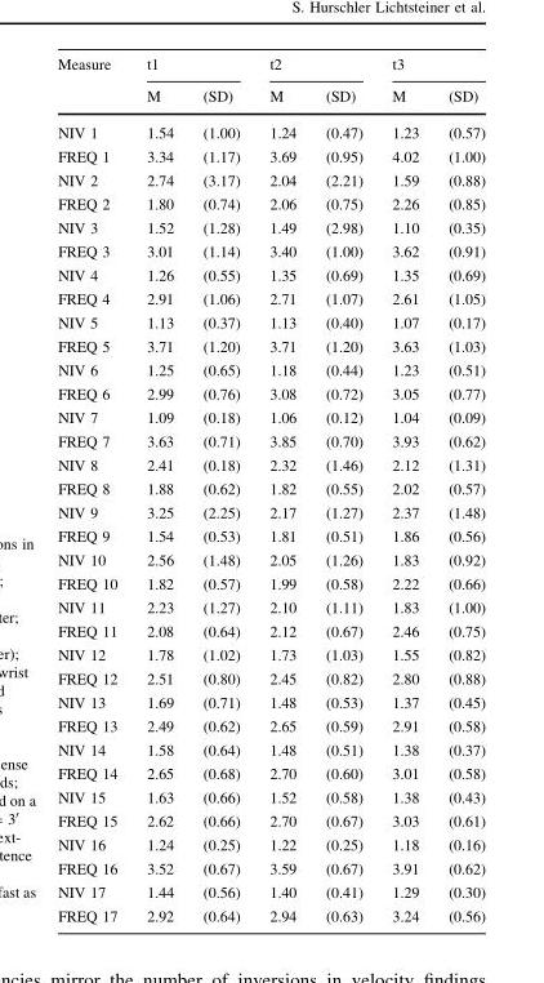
<table><thead><tr><td rowspan="2">Measure</td><td colspan="2">t1</td><td colspan="2">t2</td><td colspan="2">t3</td></tr><tr><td>M</td><td>(SD)</td><td>M</td><td>(SD)</td><td>M</td><td>(SD)</td></tr></thead><tbody><tr><td>NIV 1</td><td>1.54</td><td>(1.00)</td><td>1.24</td><td>(0.47)</td><td>1.23</td><td>(0.57)</td></tr><tr><td>FREQ 1</td><td>3.34</td><td>(1.17)</td><td>3.69</td><td>(0.95)</td><td>4.02</td><td>(1.00)</td></tr><tr><td>NIV 2</td><td>2.74</td><td>(3.17)</td><td>2.04</td><td>(2.21)</td><td>1.59</td><td>(0.88)</td></tr><tr><td>FREQ 2</td><td>1.80</td><td>(0.74)</td><td>2.06</td><td>(0.75)</td><td>2.26</td><td>(0.85)</td></tr><tr><td>NIV 3</td><td>1.52</td><td>(1.28)</td><td>1.49</td><td>(2.98)</td><td>1.10</td><td>(0.35)</td></tr><tr><td>FREQ 3</td><td>3.01</td><td>(1.14)</td><td>3.40</td><td>(1.00)</td><td>3.62</td><td>(0.91)</td></tr><tr><td>NIV 4</td><td>1.26</td><td>(0.55)</td><td>1.35</td><td>(0.69)</td><td>1.35</td><td>(0.69)</td></tr><tr><td>FREQ 4</td><td>2.91</td><td>(1.06)</td><td>2.71</td><td>(1.07)</td><td>2.61</td><td>(1.05)</td></tr><tr><td>NIV 5</td><td>1.13</td><td>(0.37)</td><td>1.13</td><td>(0.40)</td><td>1.07</td><td>(0.17)</td></tr><tr><td>FREQ 5</td><td>3.71</td><td>(1.20)</td><td>3.71</td><td>(1.20)</td><td>3.63</td><td>(1.03)</td></tr><tr><td>NIV 6</td><td>1.25</td><td>(0.65)</td><td>1.18</td><td>(0.44)</td><td>1.23</td><td>(0.51)</td></tr><tr><td>FREQ 6</td><td>2.99</td><td>(0.76)</td><td>3.08</td><td>(0.72)</td><td>3.05</td><td>(0.77)</td></tr><tr><td>NIV 7</td><td>1.09</td><td>(0.18)</td><td>1.06</td><td>(0.12)</td><td>1.04</td><td>(0.09)</td></tr><tr><td>FREQ 7</td><td>3.63</td><td>(0.71)</td><td>3.85</td><td>(0.70)</td><td>3.93</td><td>(0.62)</td></tr><tr><td>NIV 8</td><td>2.41</td><td>(0.18)</td><td>2.32</td><td>(1.46)</td><td>2.12</td><td>(1.31)</td></tr><tr><td>FREQ 8</td><td>1.88</td><td>(0.62)</td><td>1.82</td><td>(0.55)</td><td>2.02</td><td>(0.57)</td></tr><tr><td>NIV 9</td><td>3.25</td><td>(2.25)</td><td>2.17</td><td>(1.27)</td><td>2.37</td><td>(1.48)</td></tr><tr><td>FREQ 9</td><td>1.54</td><td>(0.53)</td><td>1.81</td><td>(0.51)</td><td>1.86</td><td>(0.56)</td></tr><tr><td>NIV 10</td><td>2.56</td><td>(1.48)</td><td>2.05</td><td>(1.26)</td><td>1.83</td><td>(0.92)</td></tr><tr><td>FREQ 10</td><td>1.82</td><td>(0.57)</td><td>1.99</td><td>(0.58)</td><td>2.22</td><td>(0.66)</td></tr><tr><td>NIV 11</td><td>2.23</td><td>(1.27)</td><td>2.10</td><td>(1.11)</td><td>1.83</td><td>(1.00)</td></tr><tr><td>FREQ 11</td><td>2.08</td><td>(0.64)</td><td>2.12</td><td>(0.67)</td><td>2.46</td><td>(0.75)</td></tr><tr><td>NIV 12</td><td>1.78</td><td>(1.02)</td><td>1.73</td><td>(1.03)</td><td>1.55</td><td>(0.82)</td></tr><tr><td>FREQ 12</td><td>2.51</td><td>(0.80)</td><td>2.45</td><td>(0.82)</td><td>2.80</td><td>(0.88)</td></tr><tr><td>NIV 13</td><td>1.69</td><td>(0.71)</td><td>1.48</td><td>(0.53)</td><td>1.37</td><td>(0.45)</td></tr><tr><td>FREQ 13</td><td>2.49</td><td>(0.62)</td><td>2.65</td><td>(0.59)</td><td>2.91</td><td>(0.58)</td></tr><tr><td>NIV 14</td><td>1.58</td><td>(0.64)</td><td>1.48</td><td>(0.51)</td><td>1.38</td><td>(0.37)</td></tr><tr><td>FREQ 14</td><td>2.65</td><td>(0.68)</td><td>2.70</td><td>(0.60)</td><td>3.01</td><td>(0.58)</td></tr><tr><td>NIV 15</td><td>1.63</td><td>(0.66)</td><td>1.52</td><td>(0.58)</td><td>1.38</td><td>(0.43)</td></tr><tr><td>FREQ 15</td><td>2.62</td><td>(0.66)</td><td>2.70</td><td>(0.67)</td><td>3.03</td><td>(0.61)</td></tr><tr><td>NIV 16</td><td>1.24</td><td>(0.25)</td><td>1.22</td><td>(0.25)</td><td>1.18</td><td>(0.16)</td></tr><tr><td>FREQ 16</td><td>3.52</td><td>(0.67)</td><td>3.59</td><td>(0.67)</td><td>3.91</td><td>(0.62)</td></tr><tr><td>NIV 17</td><td>1.44</td><td>(0.56)</td><td>1.40</td><td>(0.41)</td><td>1.29</td><td>(0.30)</td></tr><tr><td>FREQ 17</td><td>2.92</td><td>(0.64)</td><td>2.94</td><td>(0.63)</td><td>3.24</td><td>(0.56)</td></tr></tbody></table>